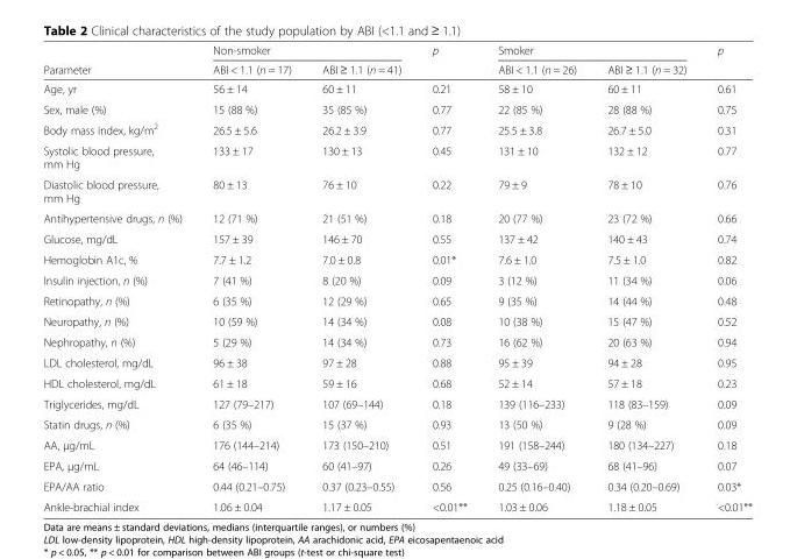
<table><thead><tr><td rowspan="2">Parameter</td><td colspan="2">Non-smoker</td><td rowspan="2">p</td><td colspan="2">Smoker</td><td rowspan="2">p</td></tr><tr><td>ABI &lt; 1.1 (n = 17)</td><td>ABI ≥ 1.1 (n = 41)</td><td>ABI &lt; 1.1 (n = 26)</td><td>ABI ≥ 1.1 (n = 32)</td></tr></thead><tbody><tr><td>Age, yr</td><td>56 ± 14</td><td>60 ± 11</td><td>0.21</td><td>58 ± 10</td><td>60 ± 11</td><td>0.61</td></tr><tr><td>Sex, male (%)</td><td>15 (88 %)</td><td>35 (85 %)</td><td>0.77</td><td>22 (85 %)</td><td>28 (88 %)</td><td>0.75</td></tr><tr><td>Body mass index, kg/m<sup>2</sup></td><td>26.5 ± 5.6</td><td>26.2 ± 3.9</td><td>0.77</td><td>25.5 ± 3.8</td><td>26.7 ± 5.0</td><td>0.31</td></tr><tr><td>Systolic blood pressure, mm Hg</td><td>133 ± 17</td><td>130 ± 13</td><td>0.45</td><td>131 ± 10</td><td>132 ± 12</td><td>0.77</td></tr><tr><td>Diastolic blood pressure, mm Hg</td><td>80 ± 13</td><td>76 ± 10</td><td>0.22</td><td>79 ± 9</td><td>78 ± 10</td><td>0.76</td></tr><tr><td>Antihypertensive drugs, n (%)</td><td>12 (71 %)</td><td>21 (51 %)</td><td>0.18</td><td>20 (77 %)</td><td>23 (72 %)</td><td>0.66</td></tr><tr><td>Glucose, mg/dL</td><td>157 ± 39</td><td>146 ± 70</td><td>0.55</td><td>137 ± 42</td><td>140 ± 43</td><td>0.74</td></tr><tr><td>Hemoglobin A1c, %</td><td>7.7 ± 1.2</td><td>7.0 ± 0.8</td><td>0.01*</td><td>7.6 ± 1.0</td><td>7.5 ± 1.0</td><td>0.82</td></tr><tr><td>Insulin injection, n (%)</td><td>7 (41 %)</td><td>8 (20 %)</td><td>0.09</td><td>3 (12 %)</td><td>11 (34 %)</td><td>0.06</td></tr><tr><td>Retinopathy, n (%)</td><td>6 (35 %)</td><td>12 (29 %)</td><td>0.65</td><td>9 (35 %)</td><td>14 (44 %)</td><td>0.48</td></tr><tr><td>Neuropathy, n (%)</td><td>10 (59 %)</td><td>14 (34 %)</td><td>0.08</td><td>10 (38 %)</td><td>15 (47 %)</td><td>0.52</td></tr><tr><td>Nephropathy, n (%)</td><td>5 (29 %)</td><td>14 (34 %)</td><td>0.73</td><td>16 (62 %)</td><td>20 (63 %)</td><td>0.94</td></tr><tr><td>LDL cholesterol, mg/dL</td><td>96 ± 38</td><td>97 ± 28</td><td>0.88</td><td>95 ± 39</td><td>94 ± 28</td><td>0.95</td></tr><tr><td>HDL cholesterol, mg/dL</td><td>61 ± 18</td><td>59 ± 16</td><td>0.68</td><td>52 ± 14</td><td>57 ± 18</td><td>0.23</td></tr><tr><td>Triglycerides, mg/dL</td><td>127 (79–217)</td><td>107 (69–144)</td><td>0.18</td><td>139 (116–233)</td><td>118 (83–159)</td><td>0.09</td></tr><tr><td>Statin drugs, n (%)</td><td>6 (35 %)</td><td>15 (37 %)</td><td>0.93</td><td>13 (50 %)</td><td>9 (28 %)</td><td>0.09</td></tr><tr><td>AA, μg/mL</td><td>176 (144–214)</td><td>173 (150–210)</td><td>0.51</td><td>191 (158–244)</td><td>180 (134–227)</td><td>0.18</td></tr><tr><td>EPA, μg/mL</td><td>64 (46–114)</td><td>60 (41–97)</td><td>0.26</td><td>49 (33–69)</td><td>68 (41–96)</td><td>0.07</td></tr><tr><td>EPA/AA ratio</td><td>0.44 (0.21–0.75)</td><td>0.37 (0.23–0.55)</td><td>0.56</td><td>0.25 (0.16–0.40)</td><td>0.34 (0.20–0.69)</td><td>0.03*</td></tr><tr><td>Ankle-brachial index</td><td>1.06 ± 0.04</td><td>1.17 ± 0.05</td><td>&lt;0.01**</td><td>1.03 ± 0.06</td><td>1.18 ± 0.05</td><td>&lt;0.01**</td></tr></tbody></table>